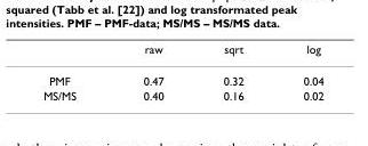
<table><thead><tr><td></td><td>raw</td><td>sqrt</td><td>log</td></tr></thead><tbody><tr><td>PMF</td><td>0.47</td><td>0.32</td><td>0.04</td></tr><tr><td>MS/MS</td><td>0.40</td><td>0.16</td><td>0.02</td></tr></tbody></table>